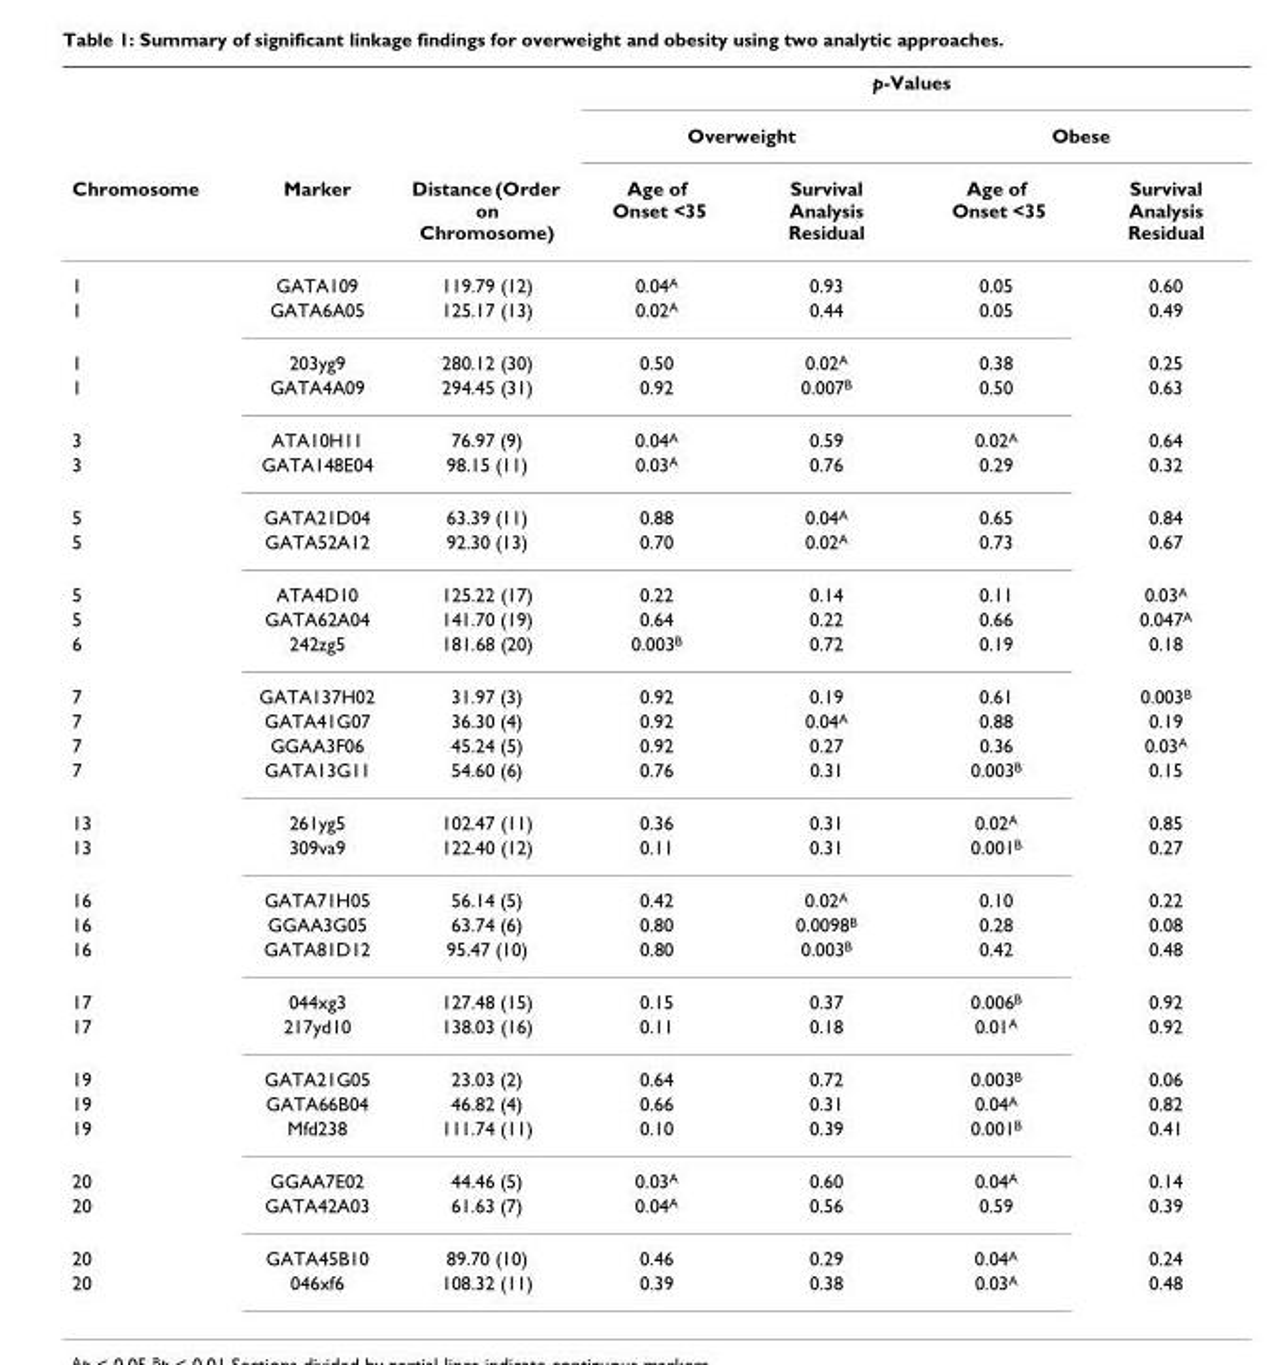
<table><thead><tr><td rowspan="3">Chromosome</td><td rowspan="3">Marker</td><td rowspan="3">Distance (Order on Chromosome)</td><td colspan="4">p-Values</td></tr><tr><td colspan="2">Overweight</td><td colspan="2">Obese</td></tr><tr><td>Age of Onset &lt;35</td><td>Survival Analysis Residual</td><td>Age of Onset &lt;35</td><td>Survival Analysis Residual</td></tr></thead><tbody><tr><td>1</td><td>GATA109</td><td>119.79 (12)</td><td>0.04A</td><td>0.93</td><td>0.05</td><td>0.60</td></tr><tr><td>1</td><td>GATA6A05</td><td>125.17 (13)</td><td>0.02A</td><td>0.44</td><td>0.05</td><td>0.49</td></tr><tr><td>1</td><td>203yg9</td><td>280.12 (30)</td><td>0.50</td><td>0.02A</td><td>0.38</td><td>0.25</td></tr><tr><td>1</td><td>GATA4A09</td><td>294.45 (31)</td><td>0.92</td><td>0.007B</td><td>0.50</td><td>0.63</td></tr><tr><td>3</td><td>ATA10H11</td><td>76.97 (9)</td><td>0.04A</td><td>0.59</td><td>0.02A</td><td>0.64</td></tr><tr><td>3</td><td>GATA148E04</td><td>98.15 (11)</td><td>0.03A</td><td>0.76</td><td>0.29</td><td>0.32</td></tr><tr><td>5</td><td>GATA21D04</td><td>63.39 (11)</td><td>0.88</td><td>0.04A</td><td>0.65</td><td>0.84</td></tr><tr><td>5</td><td>GATA52A12</td><td>92.30 (13)</td><td>0.70</td><td>0.02A</td><td>0.73</td><td>0.67</td></tr><tr><td>5</td><td>ATA4D10</td><td>125.22 (17)</td><td>0.22</td><td>0.14</td><td>0.11</td><td>0.03A</td></tr><tr><td>5</td><td>GATA62A04</td><td>141.70 (19)</td><td>0.64</td><td>0.22</td><td>0.66</td><td>0.047A</td></tr><tr><td>6</td><td>242zg5</td><td>181.68 (20)</td><td>0.003B</td><td>0.72</td><td>0.19</td><td>0.18</td></tr><tr><td>7</td><td>GATA137H02</td><td>31.97 (3)</td><td>0.92</td><td>0.19</td><td>0.61</td><td>0.003B</td></tr><tr><td>7</td><td>GATA41G07</td><td>36.30 (4)</td><td>0.92</td><td>0.04A</td><td>0.88</td><td>0.19</td></tr><tr><td>7</td><td>GGAA3F06</td><td>45.24 (5)</td><td>0.92</td><td>0.27</td><td>0.36</td><td>0.03A</td></tr><tr><td>7</td><td>GATA13G11</td><td>54.60 (6)</td><td>0.76</td><td>0.31</td><td>0.003B</td><td>0.15</td></tr><tr><td>13</td><td>261yg5</td><td>102.47 (11)</td><td>0.36</td><td>0.31</td><td>0.02A</td><td>0.85</td></tr><tr><td>13</td><td>309va9</td><td>122.40 (12)</td><td>0.11</td><td>0.31</td><td>0.001B</td><td>0.27</td></tr><tr><td>16</td><td>GATA71H05</td><td>56.14 (5)</td><td>0.42</td><td>0.02A</td><td>0.10</td><td>0.22</td></tr><tr><td>16</td><td>GGAA3G05</td><td>63.74 (6)</td><td>0.80</td><td>0.0098B</td><td>0.28</td><td>0.08</td></tr><tr><td>16</td><td>GATA81D12</td><td>95.47 (10)</td><td>0.80</td><td>0.003B</td><td>0.42</td><td>0.48</td></tr><tr><td>17</td><td>044xg3</td><td>127.48 (15)</td><td>0.15</td><td>0.37</td><td>0.006B</td><td>0.92</td></tr><tr><td>17</td><td>217yd10</td><td>138.03 (16)</td><td>0.11</td><td>0.18</td><td>0.01A</td><td>0.92</td></tr><tr><td>19</td><td>GATA21G05</td><td>23.03 (2)</td><td>0.64</td><td>0.72</td><td>0.003B</td><td>0.06</td></tr><tr><td>19</td><td>GATA66B04</td><td>46.82 (4)</td><td>0.66</td><td>0.31</td><td>0.04A</td><td>0.82</td></tr><tr><td>19</td><td>Mfd238</td><td>111.74 (11)</td><td>0.10</td><td>0.39</td><td>0.001B</td><td>0.41</td></tr><tr><td>20</td><td>GGAA7E02</td><td>44.46 (5)</td><td>0.03A</td><td>0.60</td><td>0.04A</td><td>0.14</td></tr><tr><td>20</td><td>GATA42A03</td><td>61.63 (7)</td><td>0.04A</td><td>0.56</td><td>0.59</td><td>0.39</td></tr><tr><td>20</td><td>GATA45B10</td><td>89.70 (10)</td><td>0.46</td><td>0.29</td><td>0.04A</td><td>0.24</td></tr><tr><td>20</td><td>046xf6</td><td>108.32 (11)</td><td>0.39</td><td>0.38</td><td>0.03A</td><td>0.48</td></tr></tbody></table>